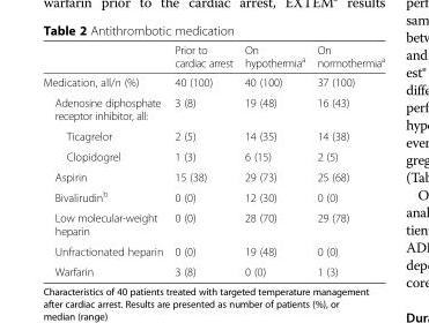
<table><thead><tr><td></td><td>Prior to cardiac arrest</td><td>On hypothermia<sup>a</sup></td><td>On normothermia<sup>a</sup></td></tr></thead><tbody><tr><td>Medication, all/n (%)</td><td>40 (100)</td><td>40 (100)</td><td>37 (100)</td></tr><tr><td>Adenosine diphosphate receptor inhibitor, all:</td><td>3 (8)</td><td>19 (48)</td><td>16 (43)</td></tr><tr><td>Ticagrelor</td><td>2 (5)</td><td>14 (35)</td><td>14 (38)</td></tr><tr><td>Clopidogrel</td><td>1 (3)</td><td>6 (15)</td><td>2 (5)</td></tr><tr><td>Aspirin</td><td>15 (38)</td><td>29 (73)</td><td>25 (68)</td></tr><tr><td>Bivalirudin<sup>b</sup></td><td>0 (0)</td><td>12 (30)</td><td>0 (0)</td></tr><tr><td>Low molecular-weight heparin</td><td>0 (0)</td><td>28 (70)</td><td>29 (78)</td></tr><tr><td>Unfractionated heparin</td><td>0 (0)</td><td>19 (48)</td><td>0 (0)</td></tr><tr><td>Warfarin</td><td>3 (8)</td><td>0 (0)</td><td>1 (3)</td></tr></tbody></table>